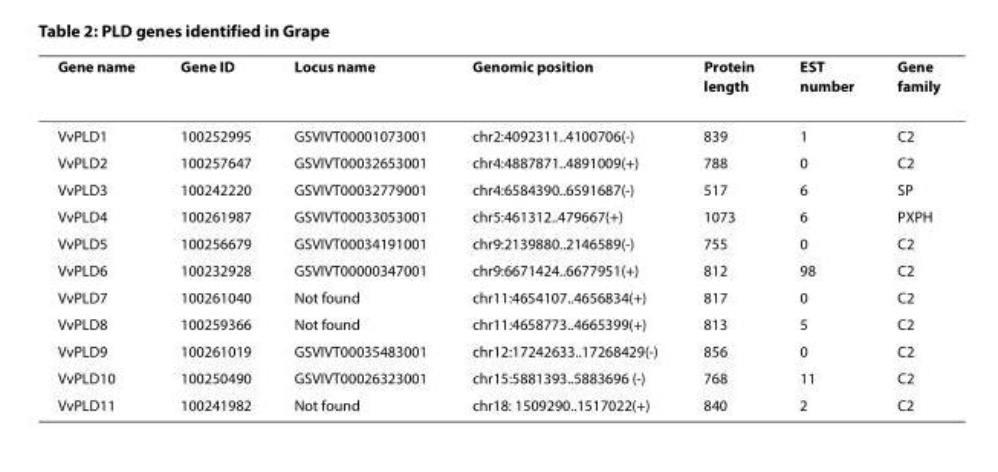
<table><thead><tr><td>Gene name</td><td>Gene ID</td><td>Locus name</td><td>Genomic position</td><td>Protein length</td><td>EST number</td><td>Gene family</td></tr></thead><tbody><tr><td>VvPLD1</td><td>100252995</td><td>GSVIVT00001073001</td><td>chr2:4092311..4100706(-)</td><td>839</td><td>1</td><td>C2</td></tr><tr><td>VvPLD2</td><td>100257647</td><td>GSVIVT00032653001</td><td>chr4:4887871..4891009(+)</td><td>788</td><td>0</td><td>C2</td></tr><tr><td>VvPLD3</td><td>100242220</td><td>GSVIVT00032779001</td><td>chr4:6584390..6591687(-)</td><td>517</td><td>6</td><td>SP</td></tr><tr><td>VvPLD4</td><td>100261987</td><td>GSVIVT00033053001</td><td>chr5:461312..479667(+)</td><td>1073</td><td>6</td><td>PXPH</td></tr><tr><td>VvPLD5</td><td>100256679</td><td>GSVIVT00034191001</td><td>chr9:2139880..2146589(-)</td><td>755</td><td>0</td><td>C2</td></tr><tr><td>VvPLD6</td><td>100232928</td><td>GSVIVT00000347001</td><td>chr9:6671424..6677951(+)</td><td>812</td><td>98</td><td>C2</td></tr><tr><td>VvPLD7</td><td>100261040</td><td>Not found</td><td>chr11:4654107..4656834(+)</td><td>817</td><td>0</td><td>C2</td></tr><tr><td>VvPLD8</td><td>100259366</td><td>Not found</td><td>chr11:4658773..4665399(+)</td><td>813</td><td>5</td><td>C2</td></tr><tr><td>VvPLD9</td><td>100261019</td><td>GSVIVT00035483001</td><td>chr12:17242633..17268429(-)</td><td>856</td><td>0</td><td>C2</td></tr><tr><td>VvPLD10</td><td>100250490</td><td>GSVIVT00026323001</td><td>chr15:5881393..5883696 (-)</td><td>768</td><td>11</td><td>C2</td></tr><tr><td>VvPLD11</td><td>100241982</td><td>Not found</td><td>chr18: 1509290..1517022(+)</td><td>840</td><td>2</td><td>C2</td></tr></tbody></table>